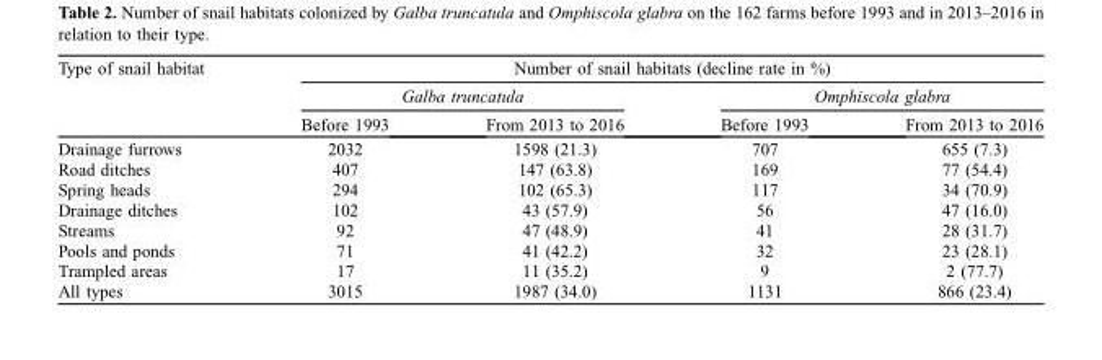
<table><thead><tr><td rowspan="3">Type of snail habitat</td><td colspan="4">Number of snail habitats (decline rate in %)</td></tr><tr><td colspan="2">Galba truncatula</td><td colspan="2">Omphiscola glabra</td></tr><tr><td>Before 1993</td><td>From 2013 to 2016</td><td>Before 1993</td><td>From 2013 to 2016</td></tr></thead><tbody><tr><td>Drainage furrows</td><td>2032</td><td>1598 (21.3)</td><td>707</td><td>655 (7.3)</td></tr><tr><td>Road ditches</td><td>407</td><td>147 (63.8)</td><td>169</td><td>77 (54.4)</td></tr><tr><td>Spring heads</td><td>294</td><td>102 (65.3)</td><td>117</td><td>34 (70.9)</td></tr><tr><td>Drainage ditches</td><td>102</td><td>43 (57.9)</td><td>56</td><td>47 (16.0)</td></tr><tr><td>Streams</td><td>92</td><td>47 (48.9)</td><td>41</td><td>28 (31.7)</td></tr><tr><td>Pools and ponds</td><td>71</td><td>41 (42.2)</td><td>32</td><td>23 (28.1)</td></tr><tr><td>Trampled areas</td><td>17</td><td>11 (35.2)</td><td>9</td><td>2 (77.7)</td></tr><tr><td>All types</td><td>3015</td><td>1987 (34.0)</td><td>1131</td><td>866 (23.4)</td></tr></tbody></table>